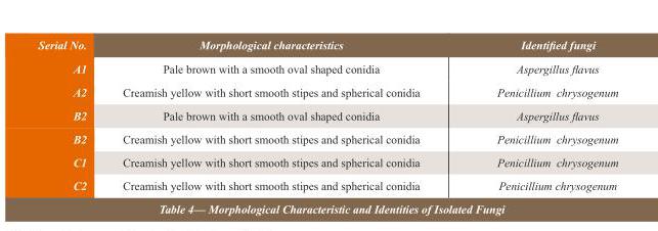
<table><thead><tr><td>Serial No.</td><td>Morphological characteristics</td><td>Identified fungi</td></tr></thead><tbody><tr><td>A1</td><td>Pale brown with a smooth oval shaped conidia</td><td>Aspergillus flavus</td></tr><tr><td>A2</td><td>Creamish yellow with short smooth stipes and spherical conidia</td><td>Penicillium chrysogenum</td></tr><tr><td>B2</td><td>Pale brown with a smooth oval shaped conidia</td><td>Aspergillus flavus</td></tr><tr><td>B2</td><td>Creamish yellow with short smooth stipes and spherical conidia</td><td>Penicillium chrysogenum</td></tr><tr><td>C1</td><td>Creamish yellow with short smooth stipes and spherical conidia</td><td>Penicillium chrysogenum</td></tr><tr><td>C2</td><td>Creamish yellow with short smooth stipes and spherical conidia</td><td>Penicillium chrysogenum</td></tr></tbody></table>